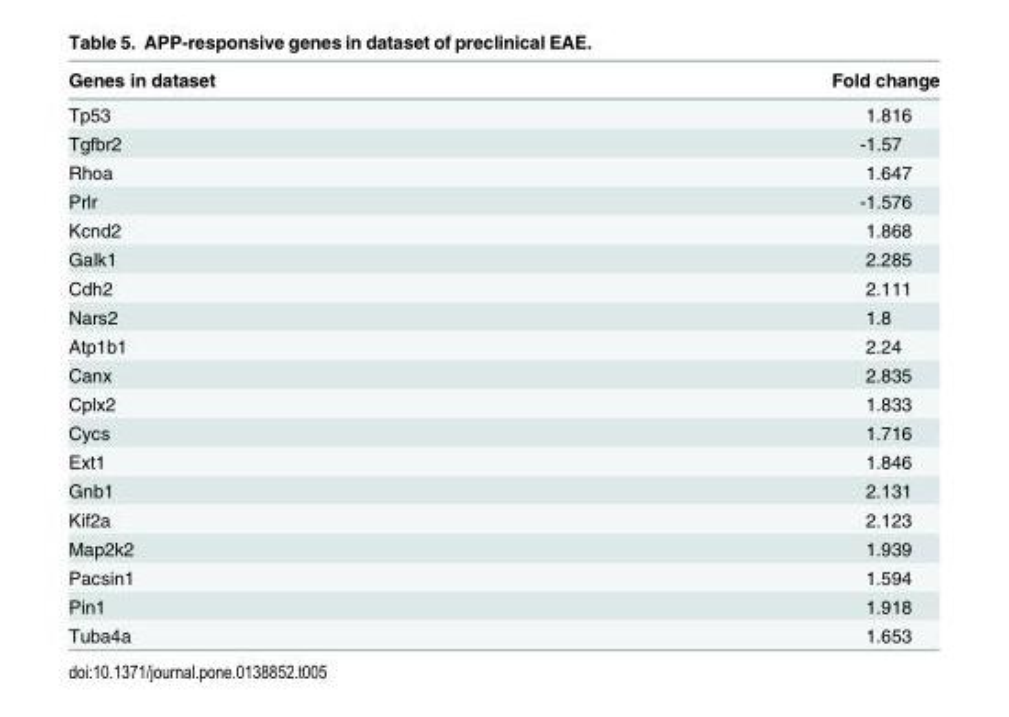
<table><thead><tr><td>Genes in dataset</td><td>Fold change</td></tr></thead><tbody><tr><td>Tp53</td><td>1.816</td></tr><tr><td>Tgfbr2</td><td>-1.57</td></tr><tr><td>Rhoa</td><td>1.647</td></tr><tr><td>Prlr</td><td>-1.576</td></tr><tr><td>Kcnd2</td><td>1.868</td></tr><tr><td>Galk1</td><td>2.285</td></tr><tr><td>Cdh2</td><td>2.111</td></tr><tr><td>Nars2</td><td>1.8</td></tr><tr><td>Atp1b1</td><td>2.24</td></tr><tr><td>Canx</td><td>2.835</td></tr><tr><td>Cplx2</td><td>1.833</td></tr><tr><td>Cycs</td><td>1.716</td></tr><tr><td>Ext1</td><td>1.846</td></tr><tr><td>Gnb1</td><td>2.131</td></tr><tr><td>Kif2a</td><td>2.123</td></tr><tr><td>Map2k2</td><td>1.939</td></tr><tr><td>Pacsin1</td><td>1.594</td></tr><tr><td>Pin1</td><td>1.918</td></tr><tr><td>Tuba4a</td><td>1.653</td></tr></tbody></table>